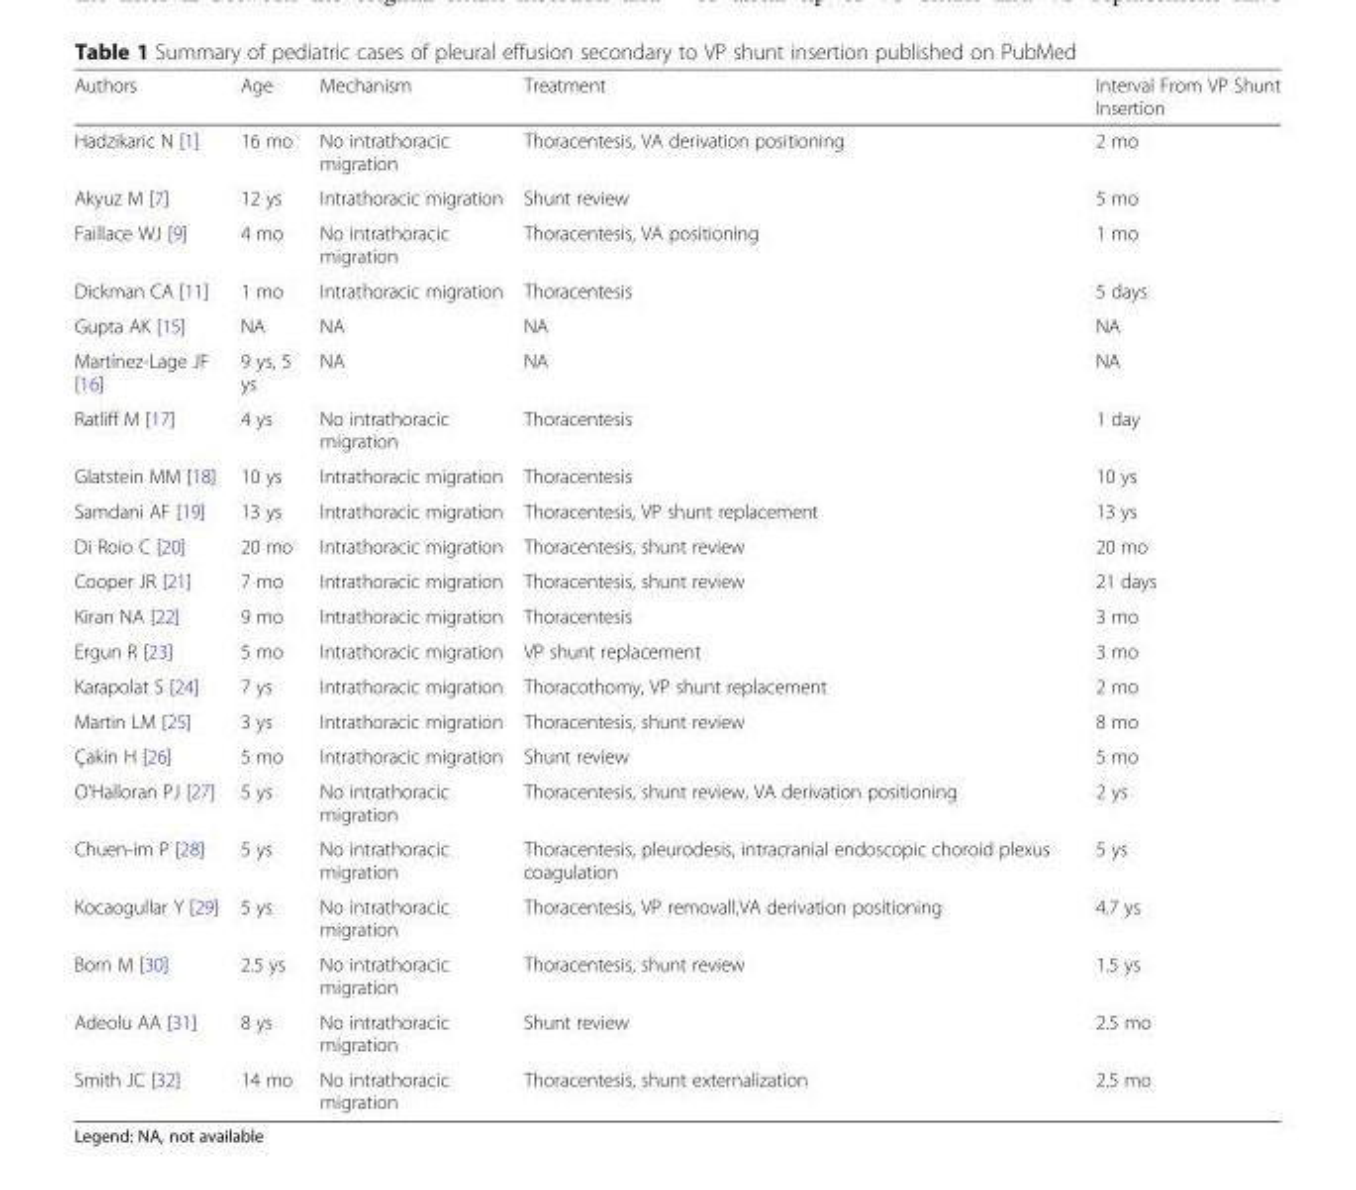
<table><thead><tr><td>Authors</td><td>Age</td><td>Mechanism</td><td>Treatment</td><td>Interval From VP Shunt Insertion</td></tr></thead><tbody><tr><td>Hadzikaric N [1]</td><td>16 mo</td><td>No intrathoracic migration</td><td>Thoracentesis, VA derivation positioning</td><td>2 mo</td></tr><tr><td>Akyuz M [7]</td><td>12 ys</td><td>Intrathoracic migration</td><td>Shunt review</td><td>5 mo</td></tr><tr><td>Faillace WJ [9]</td><td>4 mo</td><td>No intrathoracic migration</td><td>Thoracentesis, VA positioning</td><td>1 mo</td></tr><tr><td>Dickman CA [11]</td><td>1 mo</td><td>Intrathoracic migration</td><td>Thoracentesis</td><td>5 days</td></tr><tr><td>Gupta AK [15]</td><td>NA</td><td>NA</td><td>NA</td><td>NA</td></tr><tr><td>Martínez-Lage JF [16]</td><td>9 ys, 5 ys</td><td>NA</td><td>NA</td><td>NA</td></tr><tr><td>Ratliff M [17]</td><td>4 ys</td><td>No intrathoracic migration</td><td>Thoracentesis</td><td>1 day</td></tr><tr><td>Glatstein MM [18]</td><td>10 ys</td><td>Intrathoracic migration</td><td>Thoracentesis</td><td>10 ys</td></tr><tr><td>Samdani AF [19]</td><td>13 ys</td><td>Intrathoracic migration</td><td>Thoracentesis, VP shunt replacement</td><td>13 ys</td></tr><tr><td>Di Roio C [20]</td><td>20 mo</td><td>Intrathoracic migration</td><td>Thoracentesis, shunt review</td><td>20 mo</td></tr><tr><td>Cooper JR [21]</td><td>7 mo</td><td>Intrathoracic migration</td><td>Thoracentesis, shunt review</td><td>21 days</td></tr><tr><td>Kiran NA [22]</td><td>9 mo</td><td>Intrathoracic migration</td><td>Thoracentesis</td><td>3 mo</td></tr><tr><td>Ergun R [23]</td><td>5 mo</td><td>Intrathoracic migration</td><td>VP shunt replacement</td><td>3 mo</td></tr><tr><td>Karapolat S [24]</td><td>7 ys</td><td>Intrathoracic migration</td><td>Thoracothomy, VP shunt replacement</td><td>2 mo</td></tr><tr><td>Martin LM [25]</td><td>3 ys</td><td>Intrathoracic migration</td><td>Thoracentesis, shunt review</td><td>8 mo</td></tr><tr><td>Çakin H [26]</td><td>5 mo</td><td>Intrathoracic migration</td><td>Shunt review</td><td>5 mo</td></tr><tr><td>O’Halloran PJ [27]</td><td>5 ys</td><td>No intrathoracic migration</td><td>Thoracentesis, shunt review, VA derivation positioning</td><td>2 ys</td></tr><tr><td>Chuen-im P [28]</td><td>5 ys</td><td>No intrathoracic migration</td><td>Thoracentesis, pleurodesis, intracranial endoscopic choroid plexus coagulation</td><td>5 ys</td></tr><tr><td>Kocaogullar Y [29]</td><td>5 ys</td><td>No intrathoracic migration</td><td>Thoracentesis, VP removall,VA derivation positioning</td><td>4.7 ys</td></tr><tr><td>Born M [30]</td><td>2.5 ys</td><td>No intrathoracic migration</td><td>Thoracentesis, shunt review</td><td>1.5 ys</td></tr><tr><td>Adeolu AA [31]</td><td>8 ys</td><td>No intrathoracic migration</td><td>Shunt review</td><td>2.5 mo</td></tr><tr><td>Smith JC [32]</td><td>14 mo</td><td>No intrathoracic migration</td><td>Thoracentesis, shunt externalization</td><td>2.5 mo</td></tr></tbody></table>